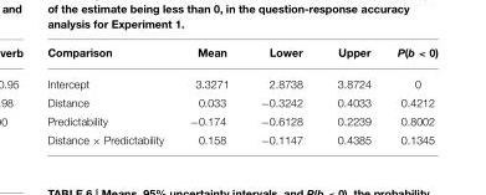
<table><thead><tr><td>Comparison</td><td>Mean</td><td>Lower</td><td>Upper</td><td>P(b &lt; 0)</td></tr></thead><tbody><tr><td>Intercept</td><td>3.3271</td><td>2.8738</td><td>3.8724</td><td>0</td></tr><tr><td>Distance</td><td>0.033</td><td>−0.3242</td><td>0.4033</td><td>0.4212</td></tr><tr><td>Predictability</td><td>−0.174</td><td>−0.6128</td><td>0.2239</td><td>0.8002</td></tr><tr><td>Distance × Predictability</td><td>0.158</td><td>−0.1147</td><td>0.4385</td><td>0.1345</td></tr></tbody></table>